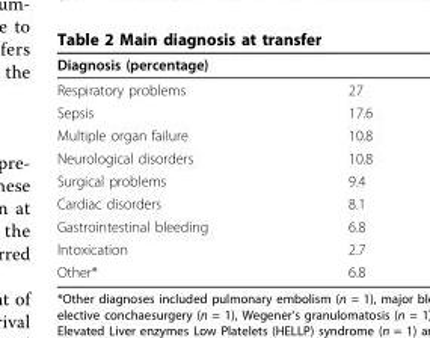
<table><thead><tr><td colspan="2">Diagnosis (percentage)</td></tr><tr><td>Respiratory problems</td><td>27</td></tr></thead><tbody><tr><td>Sepsis</td><td>17.6</td></tr><tr><td>Multiple organ failure</td><td>10.8</td></tr><tr><td>Neurological disorders</td><td>10.8</td></tr><tr><td>Surgical problems</td><td>9.4</td></tr><tr><td>Cardiac disorders</td><td>8.1</td></tr><tr><td>Gastrointestinal bleeding</td><td>6.8</td></tr><tr><td>Intoxication</td><td>2.7</td></tr><tr><td>Other*</td><td>6.8</td></tr></tbody></table>